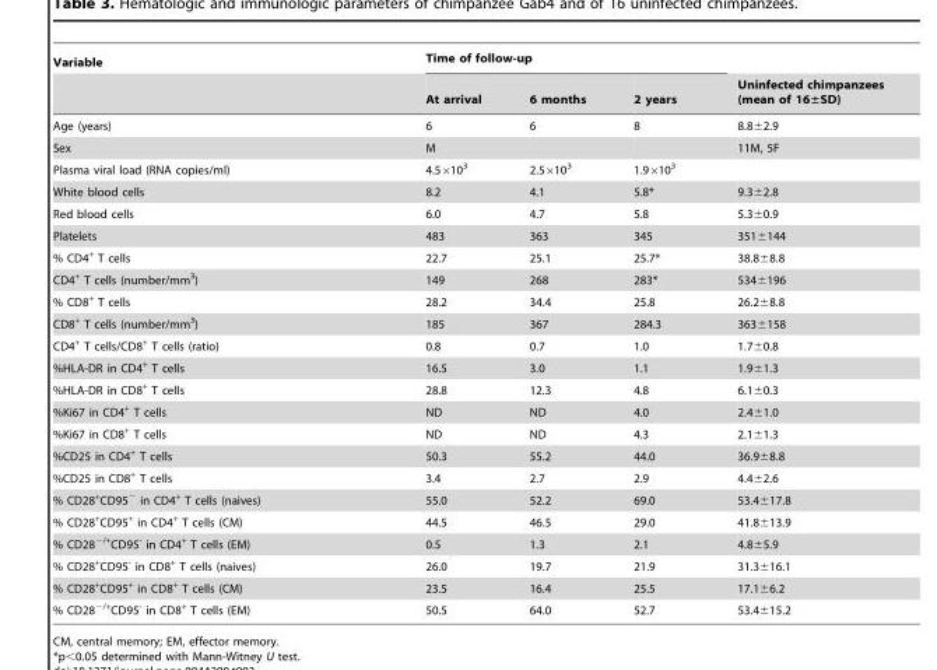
<table><thead><tr><td rowspan="2">Variable</td><td colspan="3">Time of follow-up</td><td rowspan="2">Uninfected chimpanzees (mean of 16±SD)</td></tr><tr><td>At arrival</td><td>6 months</td><td>2 years</td></tr></thead><tbody><tr><td>Age (years)</td><td>6</td><td>6</td><td>8</td><td>8.8±2.9</td></tr><tr><td>Sex</td><td>M</td><td></td><td></td><td>11M, 5F</td></tr><tr><td>Plasma viral load (RNA copies/ml)</td><td>4.5×10<sup>3</sup></td><td>2.5×10<sup>3</sup></td><td>1.9×10<sup>3</sup></td><td></td></tr><tr><td>White blood cells</td><td>8.2</td><td>4.1</td><td>5.8*</td><td>9.3±2.8</td></tr><tr><td>Red blood cells</td><td>6.0</td><td>4.7</td><td>5.8</td><td>5.3±0.9</td></tr><tr><td>Platelets</td><td>483</td><td>363</td><td>345</td><td>351±144</td></tr><tr><td>% CD4<sup>+</sup> T cells</td><td>22.7</td><td>25.1</td><td>25.7*</td><td>38.8±8.8</td></tr><tr><td>CD4<sup>+</sup> T cells (number/mm<sup>3</sup>)</td><td>149</td><td>268</td><td>283*</td><td>534±196</td></tr><tr><td>% CD8<sup>+</sup> T cells</td><td>28.2</td><td>34.4</td><td>25.8</td><td>26.2±8.8</td></tr><tr><td>CD8<sup>+</sup> T cells (number/mm<sup>3</sup>)</td><td>185</td><td>367</td><td>284.3</td><td>363±158</td></tr><tr><td>CD4<sup>+</sup> T cells/CD8<sup>+</sup> T cells (ratio)</td><td>0.8</td><td>0.7</td><td>1.0</td><td>1.7±0.8</td></tr><tr><td>%HLA-DR in CD4<sup>+</sup> T cells</td><td>16.5</td><td>3.0</td><td>1.1</td><td>1.9±1.3</td></tr><tr><td>%HLA-DR in CD8<sup>+</sup> T cells</td><td>28.8</td><td>12.3</td><td>4.8</td><td>6.1±0.3</td></tr><tr><td>%Ki67 in CD4<sup>+</sup> T cells</td><td>ND</td><td>ND</td><td>4.0</td><td>2.4±1.0</td></tr><tr><td>%Ki67 in CD8<sup>+</sup> T cells</td><td>ND</td><td>ND</td><td>4.3</td><td>2.1±1.3</td></tr><tr><td>%CD25 in CD4<sup>+</sup> T cells</td><td>50.3</td><td>55.2</td><td>44.0</td><td>36.9±8.8</td></tr><tr><td>%CD25 in CD8<sup>+</sup> T cells</td><td>3.4</td><td>2.7</td><td>2.9</td><td>4.4±2.6</td></tr><tr><td>% CD28<sup>+</sup>CD95<sup>−</sup> in CD4<sup>+</sup> T cells (naives)</td><td>55.0</td><td>52.2</td><td>69.0</td><td>53.4±17.8</td></tr><tr><td>% CD28<sup>+</sup>CD95<sup>+</sup> in CD4<sup>+</sup> T cells (CM)</td><td>44.5</td><td>46.5</td><td>29.0</td><td>41.8±13.9</td></tr><tr><td>% CD28<sup>−/+</sup>CD95<sup>-</sup> in CD4<sup>+</sup> T cells (EM)</td><td>0.5</td><td>1.3</td><td>2.1</td><td>4.8±5.9</td></tr><tr><td>% CD28<sup>+</sup>CD95<sup>-</sup> in CD8<sup>+</sup> T cells (naives)</td><td>26.0</td><td>19.7</td><td>21.9</td><td>31.3±16.1</td></tr><tr><td>% CD28<sup>+</sup>CD95<sup>+</sup> in CD8<sup>+</sup> T cells (CM)</td><td>23.5</td><td>16.4</td><td>25.5</td><td>17.1±6.2</td></tr><tr><td>% CD28<sup>−/+</sup>CD95<sup>-</sup> in CD8<sup>+</sup> T cells (EM)</td><td>50.5</td><td>64.0</td><td>52.7</td><td>53.4±15.2</td></tr></tbody></table>